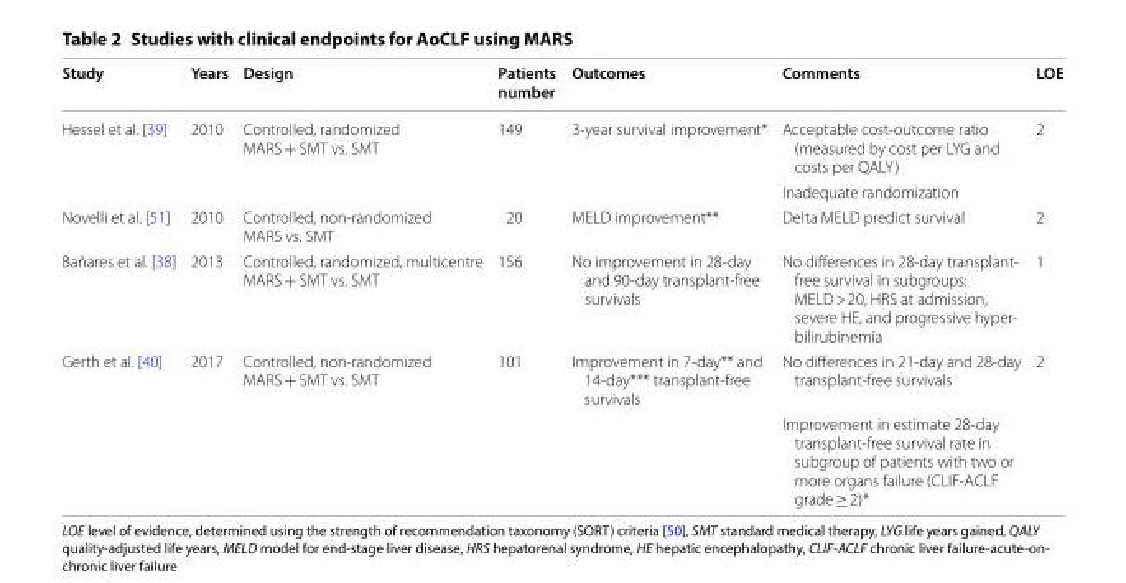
<table><thead><tr><td>Study</td><td>Years</td><td>Design</td><td>Patients number</td><td>Outcomes</td><td>Comments</td><td>LOE</td></tr></thead><tbody><tr><td rowspan="2">Hessel et al. [39]</td><td>2010</td><td>Controlled, randomized MARS + SMT vs. SMT</td><td>149</td><td>3-year survival improvement*</td><td>Acceptable cost-outcome ratio (measured by cost per LYG and costs per QALY)</td><td>2</td></tr><tr><td></td><td></td><td></td><td></td><td>Inadequate randomization</td><td></td></tr><tr><td>Novelli et al. [51]</td><td>2010</td><td>Controlled, non-randomized MARS vs. SMT</td><td>20</td><td>MELD improvement**</td><td>Delta MELD predict survival</td><td>2</td></tr><tr><td>Bañares et al. [38]</td><td>2013</td><td>Controlled, randomized, multicentre MARS + SMT vs. SMT</td><td>156</td><td>No improvement in 28-day and 90-day transplant-free survivals</td><td>No differences in 28-day transplant- free survival in subgroups: MELD &gt; 20, HRS at admission, severe HE, and progressive hyper- bilirubinemia</td><td>1</td></tr><tr><td rowspan="2">Gerth et al. [40]</td><td>2017</td><td>Controlled, non-randomized MARS + SMT vs. SMT</td><td>101</td><td>Improvement in 7-day** and 14-day*** transplant-free survivals</td><td>No differences in 21-day and 28-day transplant-free survivals</td><td>2</td></tr><tr><td></td><td></td><td></td><td></td><td>Improvement in estimate 28-day transplant-free survival rate in subgroup of patients with two or more organs failure (CLIF-ACLF grade ≥ 2)*</td><td></td></tr></tbody></table>